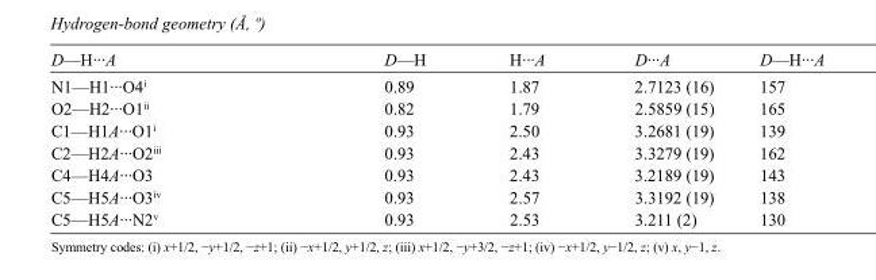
<table><tbody><tr><td>D—H···A</td><td>D—H</td><td>H···A</td><td>D···A</td><td>D—H···A</td></tr><tr><td>N1—H1···O4<sup>i</sup></td><td>0.89</td><td>1.87</td><td>2.7123 (16)</td><td>157</td></tr><tr><td>O2—H2···O1<sup>ii</sup></td><td>0.82</td><td>1.79</td><td>2.5859 (15)</td><td>165</td></tr><tr><td>C1—H1A···O1<sup>i</sup></td><td>0.93</td><td>2.50</td><td>3.2681 (19)</td><td>139</td></tr><tr><td>C2—H2A···O2<sup>iii</sup></td><td>0.93</td><td>2.43</td><td>3.3279 (19)</td><td>162</td></tr><tr><td>C4—H4A···O3</td><td>0.93</td><td>2.43</td><td>3.2189 (19)</td><td>143</td></tr><tr><td>C5—H5A···O3<sup>iv</sup></td><td>0.93</td><td>2.57</td><td>3.3192 (19)</td><td>138</td></tr><tr><td>C5—H5A···N2<sup>v</sup></td><td>0.93</td><td>2.53</td><td>3.211 (2)</td><td>130</td></tr></tbody></table>